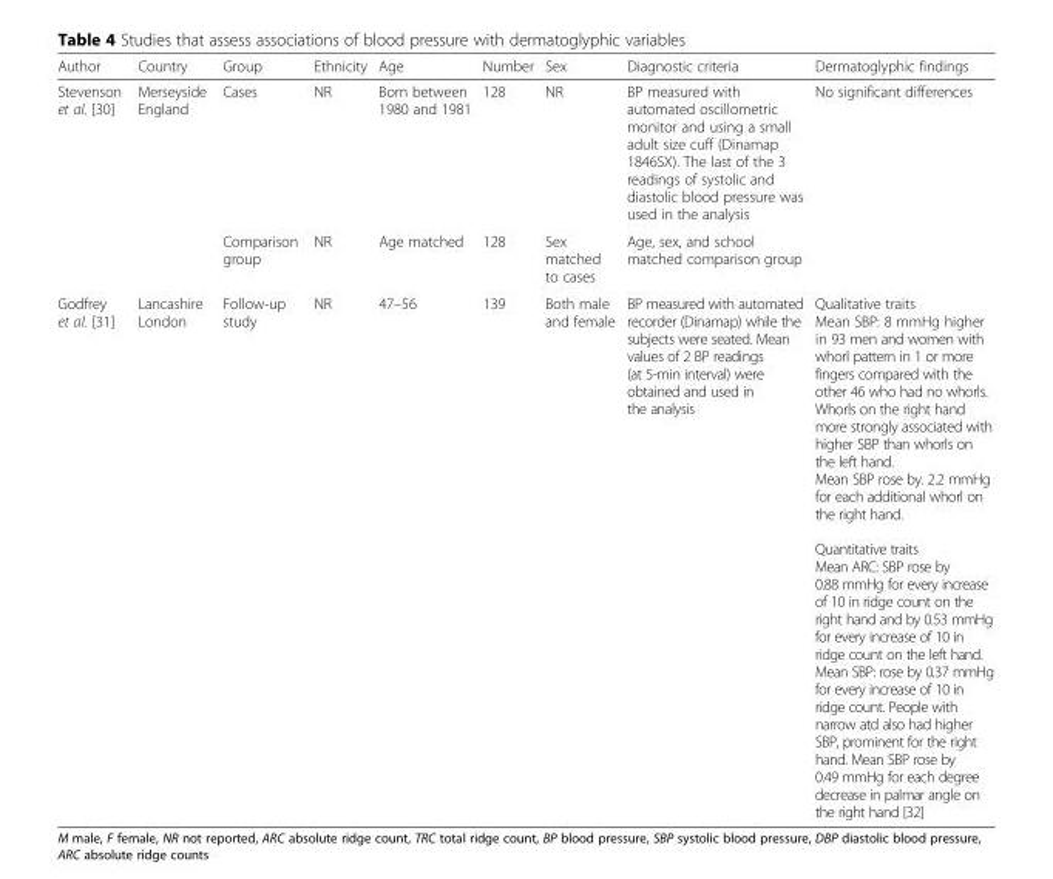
<table><thead><tr><td>Author</td><td>Country</td><td>Group</td><td>Ethnicity</td><td>Age</td><td>Number</td><td>Sex</td><td>Diagnostic criteria</td><td>Dermatoglyphic findings</td></tr></thead><tbody><tr><td rowspan="2">Stevenson et al. [30]</td><td rowspan="2">Merseyside England</td><td>Cases</td><td>NR</td><td>Born between 1980 and 1981</td><td>128</td><td>NR</td><td>BP measured with automated oscillometric monitor and using a small adult size cuff (Dinamap 1846SX). The last of the 3 readings of systolic and diastolic blood pressure was used in the analysis</td><td rowspan="2">No significant differences</td></tr><tr><td>Comparison group</td><td>NR</td><td>Age matched</td><td>128</td><td>Sex matched to cases</td><td>Age, sex, and school matched comparison group</td></tr><tr><td>Godfrey et al. [31]</td><td>Lancashire London</td><td>Follow-up study</td><td>NR</td><td>47–56</td><td>139</td><td>Both male and female</td><td>BP measured with automated recorder (Dinamap) while the subjects were seated. Mean values of 2 BP readings (at 5-min interval) were obtained and used in the analysis</td><td>Qualitative traits Mean SBP: 8 mmHg higher in 93 men and women with whorl pattern in 1 or more fingers compared with the other 46 who had no whorls. Whorls on the right hand more strongly associated with higher SBP than whorls on the left hand. Mean SBP rose by. 2.2 mmHg for each additional whorl on the right hand. Quantitative traits Mean ARC: SBP rose by 0.88 mmHg for every increase of 10 in ridge count on the right hand and by 0.53 mmHg for every increase of 10 in ridge count on the left hand. Mean SBP: rose by 0.37 mmHg for every increase of 10 in ridge count. People with narrow atd also had higher SBP, prominent for the right hand. Mean SBP rose by 0.49 mmHg for each degree decrease in palmar angle on the right hand [32]</td></tr></tbody></table>